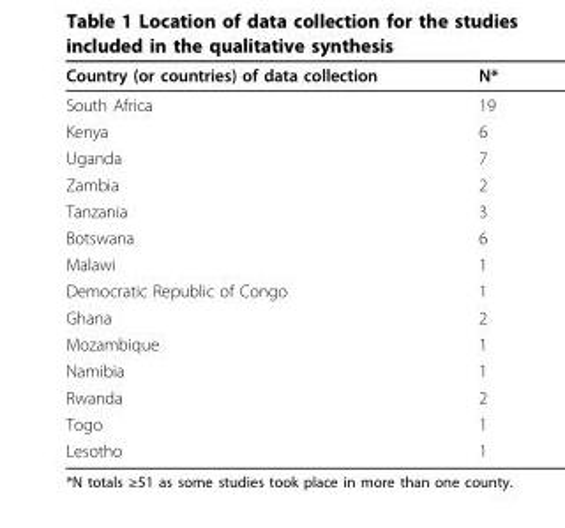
<table><thead><tr><td>Country (or countries) of data collection</td><td>N*</td></tr></thead><tbody><tr><td>South Africa</td><td>19</td></tr><tr><td>Kenya</td><td>6</td></tr><tr><td>Uganda</td><td>7</td></tr><tr><td>Zambia</td><td>2</td></tr><tr><td>Tanzania</td><td>3</td></tr><tr><td>Botswana</td><td>6</td></tr><tr><td>Malawi</td><td>1</td></tr><tr><td>Democratic Republic of Congo</td><td>1</td></tr><tr><td>Ghana</td><td>2</td></tr><tr><td>Mozambique</td><td>1</td></tr><tr><td>Namibia</td><td>1</td></tr><tr><td>Rwanda</td><td>2</td></tr><tr><td>Togo</td><td>1</td></tr><tr><td>Lesotho</td><td>1</td></tr></tbody></table>